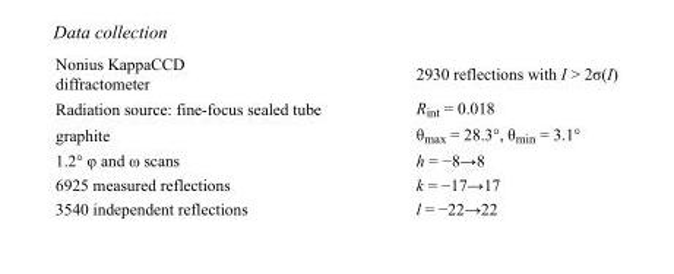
<table><tbody><tr><td>Nonius KappaCCD diffractometer</td><td>2930 reflections with I &gt; 2σ(I)</td></tr><tr><td>Radiation source: fine-focus sealed tube</td><td>R<sub>int</sub> = 0.018</td></tr><tr><td>graphite</td><td>θ<sub>max</sub> = 28.3°, θ<sub>min</sub> = 3.1°</td></tr><tr><td>1.2° φ and ω scans</td><td>h = −8→8</td></tr><tr><td>6925 measured reflections</td><td>k = −17→17</td></tr><tr><td>3540 independent reflections</td><td>l = −22→22</td></tr></tbody></table>